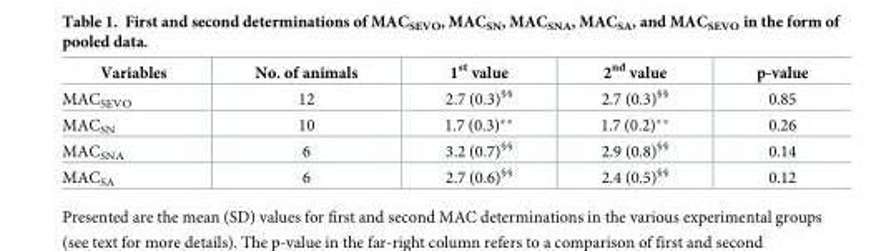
<table><thead><tr><td>Variables</td><td>No. of animals</td><td>1<sup>st</sup> value</td><td>2<sup>nd</sup> value</td><td>p-value</td></tr></thead><tbody><tr><td>MAC<sub>SEVO</sub></td><td>12</td><td>2.7 (0.3)<sup>§§</sup></td><td>2.7 (0.3)<sup>§§</sup></td><td>0.85</td></tr><tr><td>MAC<sub>SN</sub></td><td>10</td><td>1.7 (0.3)**</td><td>1.7 (0.2)**</td><td>0.26</td></tr><tr><td>MAC<sub>SNA</sub></td><td>6</td><td>3.2 (0.7)<sup>§§</sup></td><td>2.9 (0.8)<sup>§§</sup></td><td>0.14</td></tr><tr><td>MAC<sub>SA</sub></td><td>6</td><td>2.7 (0.6)<sup>§§</sup></td><td>2.4 (0.5)<sup>§§</sup></td><td>0.12</td></tr></tbody></table>